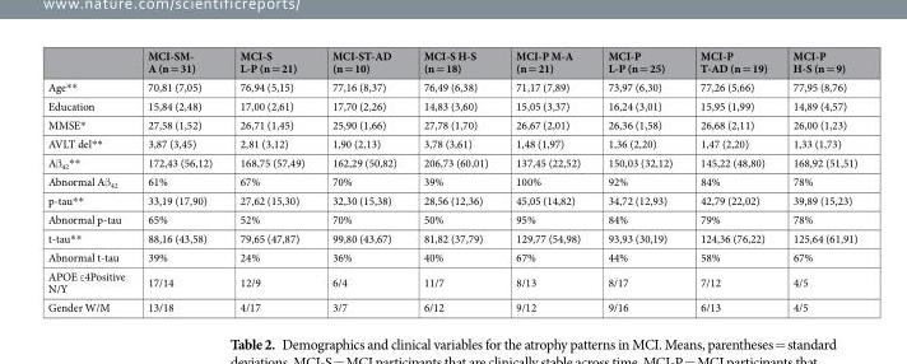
<table><thead><tr><td></td><td>MCI-SM- A (n = 31)</td><td>MCI-S L-P (n = 21)</td><td>MCI-ST-AD (n = 10)</td><td>MCI-S H-S (n = 18)</td><td>MCI-P M-A (n = 21)</td><td>MCI-P L-P (n = 25)</td><td>MCI-P T-AD (n = 19)</td><td>MCI-P H-S (n = 9)</td></tr></thead><tbody><tr><td>Age**</td><td>70,81 (7,05)</td><td>76,94 (5,15)</td><td>77,16 (8,37)</td><td>76,49 (6,38)</td><td>71,17 (7,89)</td><td>73,97 (6,30)</td><td>77,26 (5,66)</td><td>77,95 (8,76)</td></tr><tr><td>Education</td><td>15,84 (2,48)</td><td>17,00 (2,61)</td><td>17,70 (2,26)</td><td>14,83 (3,60)</td><td>15,05 (3,37)</td><td>16,24 (3,01)</td><td>15,95 (1,99)</td><td>14,89 (4,57)</td></tr><tr><td>MMSE*</td><td>27,58 (1,52)</td><td>26,71 (1,45)</td><td>25,90 (1,66)</td><td>27,78 (1,70)</td><td>26,67 (2,01)</td><td>26,36 (1,58)</td><td>26,68 (2,11)</td><td>26,00 (1,23)</td></tr><tr><td>AVLT del**</td><td>3,87 (3,45)</td><td>2,81 (3,12)</td><td>1,90 (2,13)</td><td>3,78 (3,61)</td><td>1,48 (1,97)</td><td>1,36 (2,20)</td><td>1,47 (2,20)</td><td>1,33 (1,73)</td></tr><tr><td>Aβ<sub>42</sub>**</td><td>172,43 (56,12)</td><td>168,75 (57,49)</td><td>162,29 (50,82)</td><td>206,73 (60,01)</td><td>137,45 (22,52)</td><td>150,03 (32,12)</td><td>145,22 (48,80)</td><td>168,92 (51,51)</td></tr><tr><td>Abnormal Aβ<sub>42</sub></td><td>61%</td><td>67%</td><td>70%</td><td>39%</td><td>100%</td><td>92%</td><td>84%</td><td>78%</td></tr><tr><td>p-tau**</td><td>33,19 (17,90)</td><td>27,62 (15,30)</td><td>32,30 (15,38)</td><td>28,56 (12,36)</td><td>45,05 (14,82)</td><td>34,72 (12,93)</td><td>42,79 (22,02)</td><td>39,89 (15,23)</td></tr><tr><td>Abnormal p-tau</td><td>65%</td><td>52%</td><td>70%</td><td>50%</td><td>95%</td><td>84%</td><td>79%</td><td>78%</td></tr><tr><td>t-tau**</td><td>88,16 (43,58)</td><td>79,65 (47,87)</td><td>99,80 (43,67)</td><td>81,82 (37,79)</td><td>129,77 (54,98)</td><td>93,93 (30,19)</td><td>124,36 (76,22)</td><td>125,64 (61,91)</td></tr><tr><td>Abnormal t-tau</td><td>39%</td><td>24%</td><td>36%</td><td>40%</td><td>67%</td><td>44%</td><td>58%</td><td>67%</td></tr><tr><td>APOE ε4Positive N/Y</td><td>17/14</td><td>12/9</td><td>6/4</td><td>11/7</td><td>8/13</td><td>8/17</td><td>7/12</td><td>4/5</td></tr><tr><td>Gender W/M</td><td>13/18</td><td>4/17</td><td>3/7</td><td>6/12</td><td>9/12</td><td>9/16</td><td>6/13</td><td>4/5</td></tr></tbody></table>